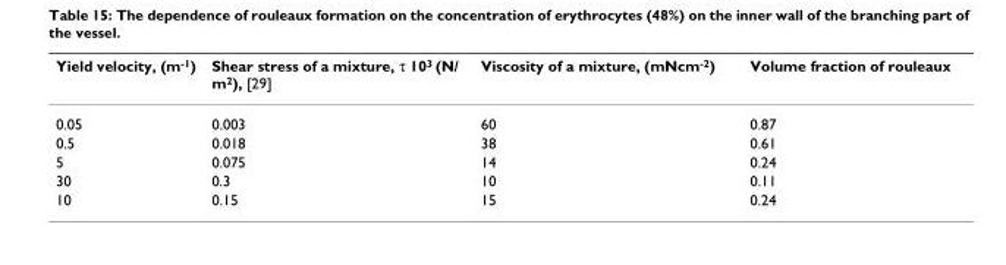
<table><thead><tr><td>Yield velocity, (m<sup>-1</sup>)</td><td>Shear stress of a mixture, τ 10<sup>3</sup> (N/ m<sup>2</sup>), [29]</td><td>Viscosity of a mixture, (mNcm<sup>-2</sup>)</td><td>Volume fraction of rouleaux</td></tr></thead><tbody><tr><td>0.05</td><td>0.003</td><td>60</td><td>0.87</td></tr><tr><td>0.5</td><td>0.018</td><td>38</td><td>0.61</td></tr><tr><td>5</td><td>0.075</td><td>14</td><td>0.24</td></tr><tr><td>30</td><td>0.3</td><td>10</td><td>0.11</td></tr><tr><td>10</td><td>0.15</td><td>15</td><td>0.24</td></tr></tbody></table>